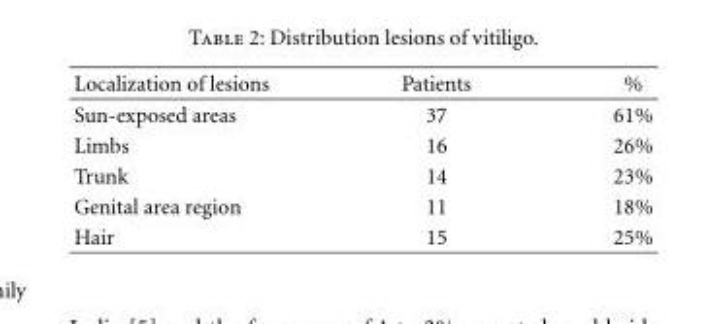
<table><thead><tr><td>Localization of lesions</td><td>Patients</td><td>%</td></tr></thead><tbody><tr><td>Sun-exposed areas</td><td>37</td><td>61%</td></tr><tr><td>Limbs</td><td>16</td><td>26%</td></tr><tr><td>Trunk</td><td>14</td><td>23%</td></tr><tr><td>Genital area region</td><td>11</td><td>18%</td></tr><tr><td>Hair</td><td>15</td><td>25%</td></tr></tbody></table>